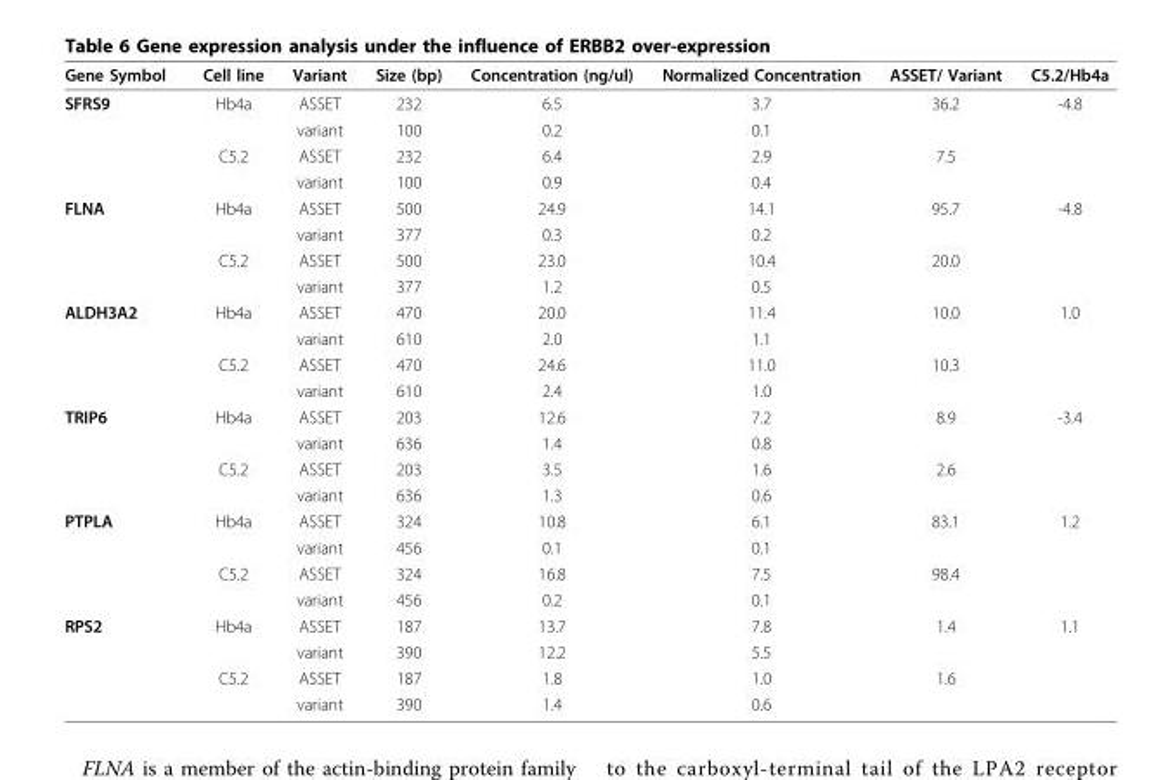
<table><thead><tr><td>Gene Symbol</td><td>Cell line</td><td>Variant</td><td>Size (bp)</td><td>Concentration (ng/ul)</td><td>Normalized Concentration</td><td>ASSET/ Variant</td><td>C5.2/Hb4a</td></tr></thead><tbody><tr><td rowspan="4">SFRS9</td><td>Hb4a</td><td>ASSET</td><td>232</td><td>6.5</td><td>3.7</td><td>36.2</td><td>-4.8</td></tr><tr><td></td><td>variant</td><td>100</td><td>0.2</td><td>0.1</td><td></td><td></td></tr><tr><td>C5.2</td><td>ASSET</td><td>232</td><td>6.4</td><td>2.9</td><td>7.5</td><td></td></tr><tr><td></td><td>variant</td><td>100</td><td>0.9</td><td>0.4</td><td></td><td></td></tr><tr><td rowspan="4">FLNA</td><td>Hb4a</td><td>ASSET</td><td>500</td><td>24.9</td><td>14.1</td><td>95.7</td><td>-4.8</td></tr><tr><td></td><td>variant</td><td>377</td><td>0.3</td><td>0.2</td><td></td><td></td></tr><tr><td>C5.2</td><td>ASSET</td><td>500</td><td>23.0</td><td>10.4</td><td>20.0</td><td></td></tr><tr><td></td><td>variant</td><td>377</td><td>1.2</td><td>0.5</td><td></td><td></td></tr><tr><td rowspan="4">ALDH3A2</td><td>Hb4a</td><td>ASSET</td><td>470</td><td>20.0</td><td>11.4</td><td>10.0</td><td>1.0</td></tr><tr><td></td><td>variant</td><td>610</td><td>2.0</td><td>1.1</td><td></td><td></td></tr><tr><td>C5.2</td><td>ASSET</td><td>470</td><td>24.6</td><td>11.0</td><td>10.3</td><td></td></tr><tr><td></td><td>variant</td><td>610</td><td>2.4</td><td>1.0</td><td></td><td></td></tr><tr><td rowspan="4">TRIP6</td><td>Hb4a</td><td>ASSET</td><td>203</td><td>12.6</td><td>7.2</td><td>8.9</td><td>-3.4</td></tr><tr><td></td><td>variant</td><td>636</td><td>1.4</td><td>0.8</td><td></td><td></td></tr><tr><td>C5.2</td><td>ASSET</td><td>203</td><td>3.5</td><td>1.6</td><td>2.6</td><td></td></tr><tr><td></td><td>variant</td><td>636</td><td>1.3</td><td>0.6</td><td></td><td></td></tr><tr><td rowspan="4">PTPLA</td><td>Hb4a</td><td>ASSET</td><td>324</td><td>10.8</td><td>6.1</td><td>83.1</td><td>1.2</td></tr><tr><td></td><td>variant</td><td>456</td><td>0.1</td><td>0.1</td><td></td><td></td></tr><tr><td>C5.2</td><td>ASSET</td><td>324</td><td>16.8</td><td>7.5</td><td>98.4</td><td></td></tr><tr><td></td><td>variant</td><td>456</td><td>0.2</td><td>0.1</td><td></td><td></td></tr><tr><td rowspan="4">RPS2</td><td>Hb4a</td><td>ASSET</td><td>187</td><td>13.7</td><td>7.8</td><td>1.4</td><td>1.1</td></tr><tr><td></td><td>variant</td><td>390</td><td>12.2</td><td>5.5</td><td></td><td></td></tr><tr><td>C5.2</td><td>ASSET</td><td>187</td><td>1.8</td><td>1.0</td><td>1.6</td><td></td></tr><tr><td></td><td>variant</td><td>390</td><td>1.4</td><td>0.6</td><td></td><td></td></tr></tbody></table>